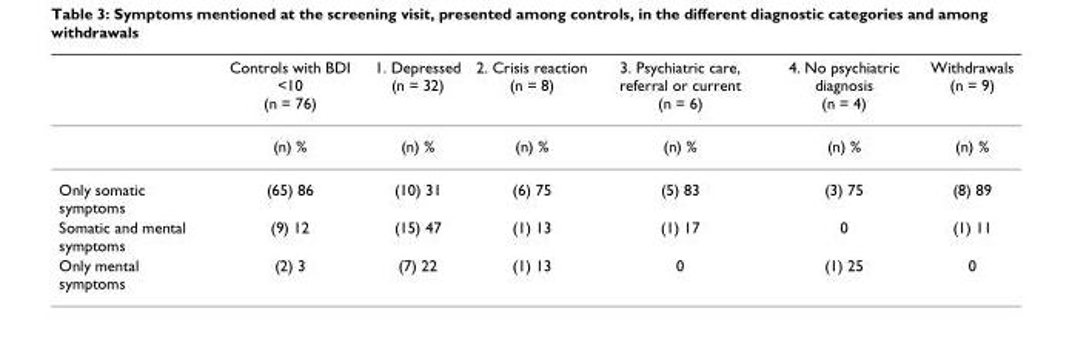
<table><thead><tr><td></td><td>Controls with BDI &lt;10 (n = 76)</td><td>1. Depressed (n = 32)</td><td>2. Crisis reaction (n = 8)</td><td>3. Psychiatric care, referral or current (n = 6)</td><td>4. No psychiatric diagnosis (n = 4)</td><td>Withdrawals (n = 9)</td></tr></thead><tbody><tr><td></td><td>(n) %</td><td>(n) %</td><td>(n) %</td><td>(n) %</td><td>(n) %</td><td>(n) %</td></tr><tr><td>Only somatic symptoms</td><td>(65) 86</td><td>(10) 31</td><td>(6) 75</td><td>(5) 83</td><td>(3) 75</td><td>(8) 89</td></tr><tr><td>Somatic and mental symptoms</td><td>(9) 12</td><td>(15) 47</td><td>(1) 13</td><td>(1) 17</td><td>0</td><td>(1) 11</td></tr><tr><td>Only mental symptoms</td><td>(2) 3</td><td>(7) 22</td><td>(1) 13</td><td>0</td><td>(1) 25</td><td>0</td></tr></tbody></table>